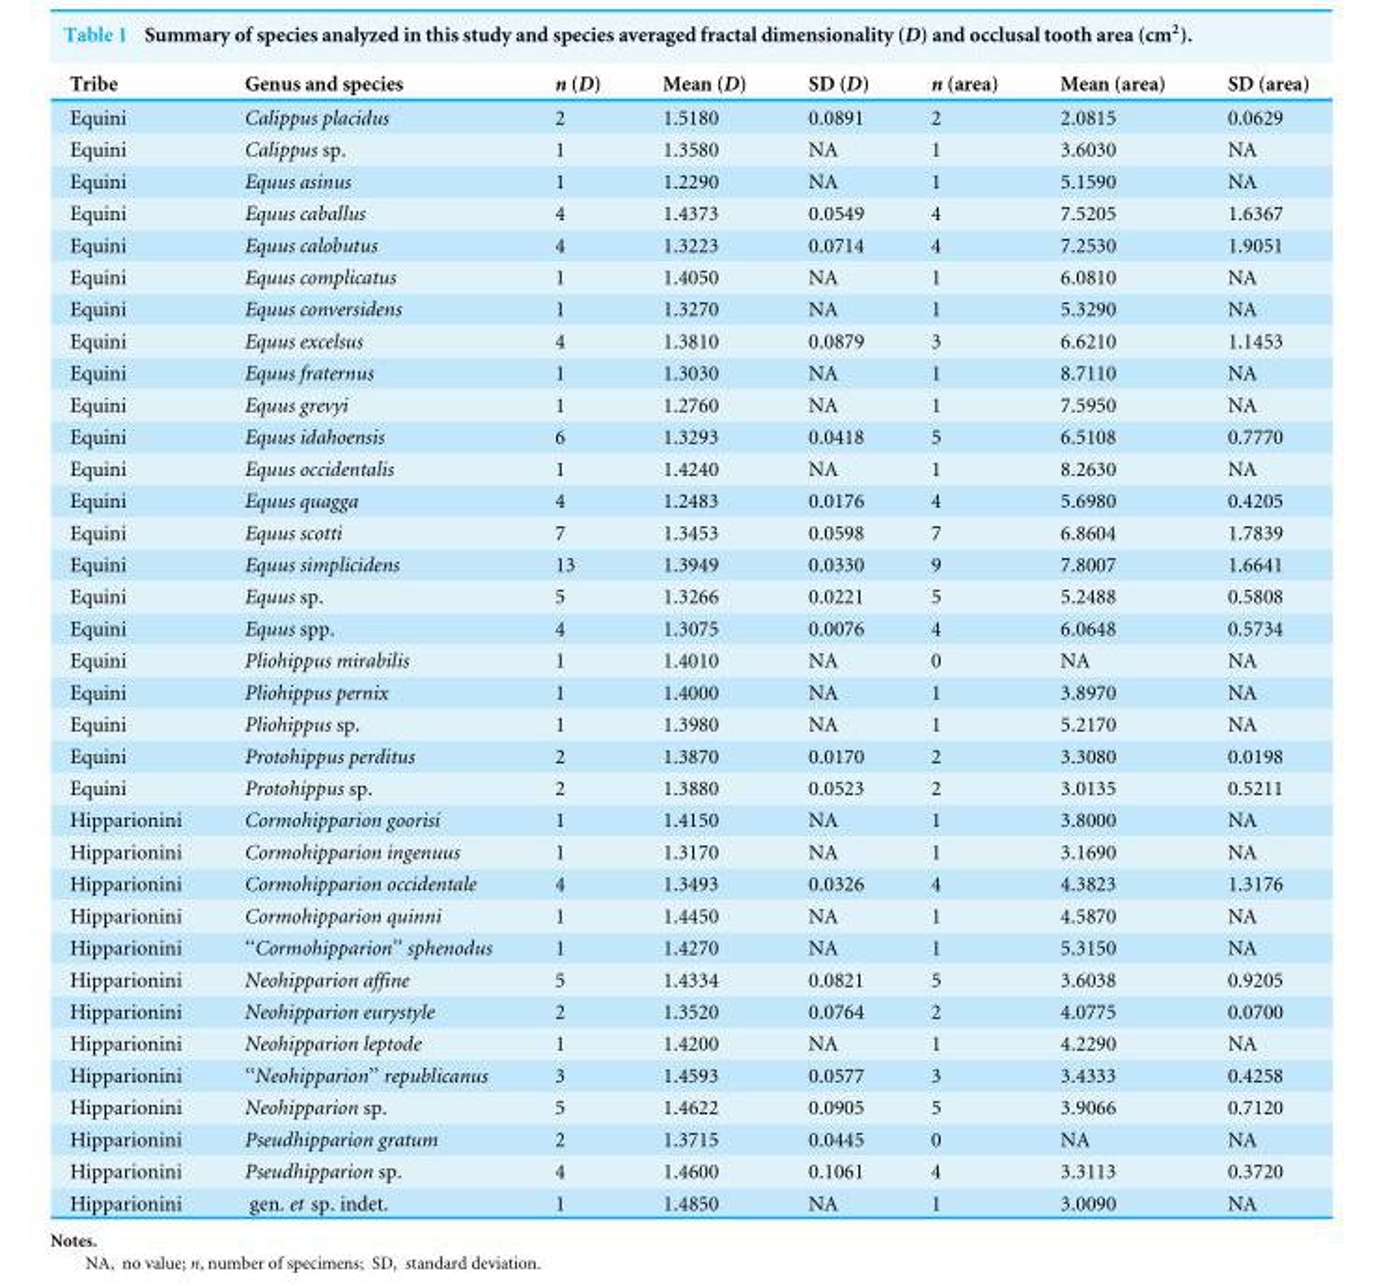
<table><thead><tr><td>Tribe</td><td>Genus and species</td><td>n (D)</td><td>Mean (D)</td><td>SD (D)</td><td>n (area)</td><td>Mean (area)</td><td>SD (area)</td></tr></thead><tbody><tr><td>Equini</td><td>Calippus placidus</td><td>2</td><td>1.5180</td><td>0.0891</td><td>2</td><td>2.0815</td><td>0.0629</td></tr><tr><td>Equini</td><td>Calippus sp.</td><td>1</td><td>1.3580</td><td>NA</td><td>1</td><td>3.6030</td><td>NA</td></tr><tr><td>Equini</td><td>Equus asinus</td><td>1</td><td>1.2290</td><td>NA</td><td>1</td><td>5.1590</td><td>NA</td></tr><tr><td>Equini</td><td>Equus caballus</td><td>4</td><td>1.4373</td><td>0.0549</td><td>4</td><td>7.5205</td><td>1.6367</td></tr><tr><td>Equini</td><td>Equus calobutus</td><td>4</td><td>1.3223</td><td>0.0714</td><td>4</td><td>7.2530</td><td>1.9051</td></tr><tr><td>Equini</td><td>Equus complicatus</td><td>1</td><td>1.4050</td><td>NA</td><td>1</td><td>6.0810</td><td>NA</td></tr><tr><td>Equini</td><td>Equus conversidens</td><td>1</td><td>1.3270</td><td>NA</td><td>1</td><td>5.3290</td><td>NA</td></tr><tr><td>Equini</td><td>Equus excelsus</td><td>4</td><td>1.3810</td><td>0.0879</td><td>3</td><td>6.6210</td><td>1.1453</td></tr><tr><td>Equini</td><td>Equus fraternus</td><td>1</td><td>1.3030</td><td>NA</td><td>1</td><td>8.7110</td><td>NA</td></tr><tr><td>Equini</td><td>Equus grevyi</td><td>1</td><td>1.2760</td><td>NA</td><td>1</td><td>7.5950</td><td>NA</td></tr><tr><td>Equini</td><td>Equus idahoensis</td><td>6</td><td>1.3293</td><td>0.0418</td><td>5</td><td>6.5108</td><td>0.7770</td></tr><tr><td>Equini</td><td>Equus occidentalis</td><td>1</td><td>1.4240</td><td>NA</td><td>1</td><td>8.2630</td><td>NA</td></tr><tr><td>Equini</td><td>Equus quagga</td><td>4</td><td>1.2483</td><td>0.0176</td><td>4</td><td>5.6980</td><td>0.4205</td></tr><tr><td>Equini</td><td>Equus scotti</td><td>7</td><td>1.3453</td><td>0.0598</td><td>7</td><td>6.8604</td><td>1.7839</td></tr><tr><td>Equini</td><td>Equus simplicidens</td><td>13</td><td>1.3949</td><td>0.0330</td><td>9</td><td>7.8007</td><td>1.6641</td></tr><tr><td>Equini</td><td>Equus sp.</td><td>5</td><td>1.3266</td><td>0.0221</td><td>5</td><td>5.2488</td><td>0.5808</td></tr><tr><td>Equini</td><td>Equus spp.</td><td>4</td><td>1.3075</td><td>0.0076</td><td>4</td><td>6.0648</td><td>0.5734</td></tr><tr><td>Equini</td><td>Pliohippus mirabilis</td><td>1</td><td>1.4010</td><td>NA</td><td>0</td><td>NA</td><td>NA</td></tr><tr><td>Equini</td><td>Pliohippus pernix</td><td>1</td><td>1.4000</td><td>NA</td><td>1</td><td>3.8970</td><td>NA</td></tr><tr><td>Equini</td><td>Pliohippus sp.</td><td>1</td><td>1.3980</td><td>NA</td><td>1</td><td>5.2170</td><td>NA</td></tr><tr><td>Equini</td><td>Protohippus perditus</td><td>2</td><td>1.3870</td><td>0.0170</td><td>2</td><td>3.3080</td><td>0.0198</td></tr><tr><td>Equini</td><td>Protohippus sp.</td><td>2</td><td>1.3880</td><td>0.0523</td><td>2</td><td>3.0135</td><td>0.5211</td></tr><tr><td>Hipparionini</td><td>Cormohipparion goorisi</td><td>1</td><td>1.4150</td><td>NA</td><td>1</td><td>3.8000</td><td>NA</td></tr><tr><td>Hipparionini</td><td>Cormohipparion ingenuus</td><td>1</td><td>1.3170</td><td>NA</td><td>1</td><td>3.1690</td><td>NA</td></tr><tr><td>Hipparionini</td><td>Cormohipparion occidentale</td><td>4</td><td>1.3493</td><td>0.0326</td><td>4</td><td>4.3823</td><td>1.3176</td></tr><tr><td>Hipparionini</td><td>Cormohipparion quinni</td><td>1</td><td>1.4450</td><td>NA</td><td>1</td><td>4.5870</td><td>NA</td></tr><tr><td>Hipparionini</td><td>‘‘Cormohipparion’’ sphenodus</td><td>1</td><td>1.4270</td><td>NA</td><td>1</td><td>5.3150</td><td>NA</td></tr><tr><td>Hipparionini</td><td>Neohipparion affine</td><td>5</td><td>1.4334</td><td>0.0821</td><td>5</td><td>3.6038</td><td>0.9205</td></tr><tr><td>Hipparionini</td><td>Neohipparion eurystyle</td><td>2</td><td>1.3520</td><td>0.0764</td><td>2</td><td>4.0775</td><td>0.0700</td></tr><tr><td>Hipparionini</td><td>Neohipparion leptode</td><td>1</td><td>1.4200</td><td>NA</td><td>1</td><td>4.2290</td><td>NA</td></tr><tr><td>Hipparionini</td><td>‘‘Neohipparion’’ republicanus</td><td>3</td><td>1.4593</td><td>0.0577</td><td>3</td><td>3.4333</td><td>0.4258</td></tr><tr><td>Hipparionini</td><td>Neohipparion sp.</td><td>5</td><td>1.4622</td><td>0.0905</td><td>5</td><td>3.9066</td><td>0.7120</td></tr><tr><td>Hipparionini</td><td>Pseudhipparion gratum</td><td>2</td><td>1.3715</td><td>0.0445</td><td>0</td><td>NA</td><td>NA</td></tr><tr><td>Hipparionini</td><td>Pseudhipparion sp.</td><td>4</td><td>1.4600</td><td>0.1061</td><td>4</td><td>3.3113</td><td>0.3720</td></tr><tr><td>Hipparionini</td><td>gen. et sp. indet.</td><td>1</td><td>1.4850</td><td>NA</td><td>1</td><td>3.0090</td><td>NA</td></tr></tbody></table>